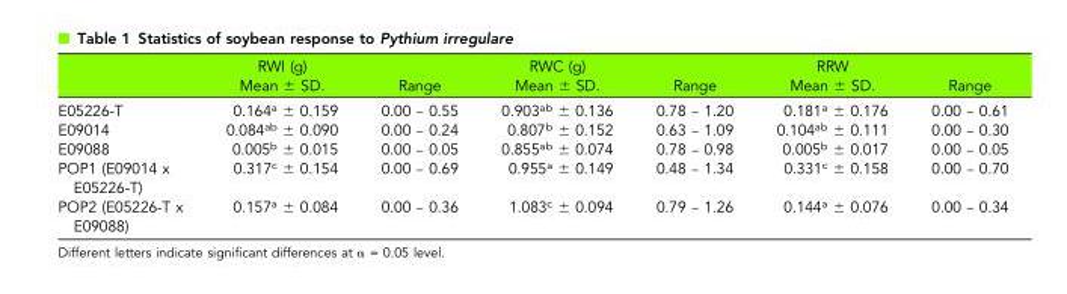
<table><thead><tr><td></td><td>RWI (g) Mean ± SD.</td><td>Range</td><td>RWC (g) Mean ± SD.</td><td>Range</td><td>RRW Mean ± SD.</td><td>Range</td></tr></thead><tbody><tr><td>E05226-T</td><td>0.164<sup>a</sup> ± 0.159</td><td>0.00 – 0.55</td><td>0.903<sup>ab</sup> ± 0.136</td><td>0.78 – 1.20</td><td>0.181<sup>a</sup> ± 0.176</td><td>0.00 – 0.61</td></tr><tr><td>E09014</td><td>0.084<sup>ab</sup> ± 0.090</td><td>0.00 – 0.24</td><td>0.807<sup>b</sup> ± 0.152</td><td>0.63 – 1.09</td><td>0.104<sup>ab</sup> ± 0.111</td><td>0.00 – 0.30</td></tr><tr><td>E09088</td><td>0.005<sup>b</sup> ± 0.015</td><td>0.00 – 0.05</td><td>0.855<sup>ab</sup> ± 0.074</td><td>0.78 – 0.98</td><td>0.005<sup>b</sup> ± 0.017</td><td>0.00 – 0.05</td></tr><tr><td>POP1 (E09014 x E05226-T)</td><td>0.317<sup>c</sup> ± 0.154</td><td>0.00 – 0.69</td><td>0.955<sup>a</sup> ± 0.149</td><td>0.48 – 1.34</td><td>0.331<sup>c</sup> ± 0.158</td><td>0.00 – 0.70</td></tr><tr><td>POP2 (E05226-T x E09088)</td><td>0.157<sup>a</sup> ± 0.084</td><td>0.00 – 0.36</td><td>1.083<sup>c</sup> ± 0.094</td><td>0.79 – 1.26</td><td>0.144<sup>a</sup> ± 0.076</td><td>0.00 – 0.34</td></tr></tbody></table>